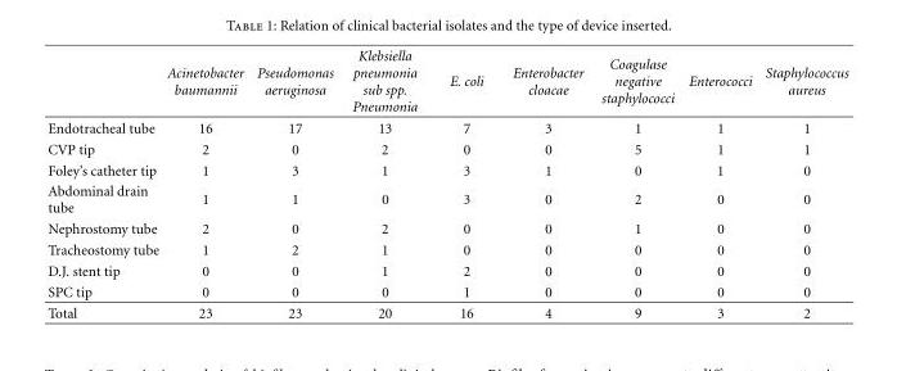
<table><thead><tr><td></td><td>Acinetobacter baumannii</td><td>Pseudomonas aeruginosa</td><td>Klebsiella pneumonia sub spp. Pneumonia</td><td>E. coli</td><td>Enterobacter cloacae</td><td>Coagulase negative staphylococci</td><td>Enterococci</td><td>Staphylococcus aureus</td></tr></thead><tbody><tr><td>Endotracheal tube</td><td>16</td><td>17</td><td>13</td><td>7</td><td>3</td><td>1</td><td>1</td><td>1</td></tr><tr><td>CVP tip</td><td>2</td><td>0</td><td>2</td><td>0</td><td>0</td><td>5</td><td>1</td><td>1</td></tr><tr><td>Foley’s catheter tip</td><td>1</td><td>3</td><td>1</td><td>3</td><td>1</td><td>0</td><td>1</td><td>0</td></tr><tr><td>Abdominal drain tube</td><td>1</td><td>1</td><td>0</td><td>3</td><td>0</td><td>2</td><td>0</td><td>0</td></tr><tr><td>Nephrostomy tube</td><td>2</td><td>0</td><td>2</td><td>0</td><td>0</td><td>1</td><td>0</td><td>0</td></tr><tr><td>Tracheostomy tube</td><td>1</td><td>2</td><td>1</td><td>0</td><td>0</td><td>0</td><td>0</td><td>0</td></tr><tr><td>D.J. stent tip</td><td>0</td><td>0</td><td>1</td><td>2</td><td>0</td><td>0</td><td>0</td><td>0</td></tr><tr><td>SPC tip</td><td>0</td><td>0</td><td>0</td><td>1</td><td>0</td><td>0</td><td>0</td><td>0</td></tr><tr><td>Total</td><td>23</td><td>23</td><td>20</td><td>16</td><td>4</td><td>9</td><td>3</td><td>2</td></tr></tbody></table>